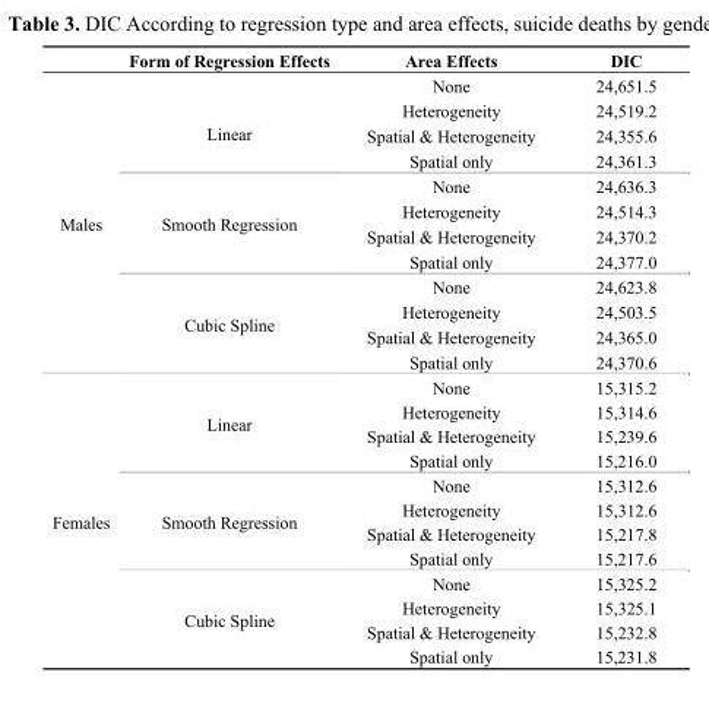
<table><thead><tr><td></td><td>Form of Regression Effects</td><td>Area Effects</td><td>DIC</td></tr></thead><tbody><tr><td rowspan="12">Males</td><td rowspan="4">Linear</td><td>None</td><td>24,651.5</td></tr><tr><td>Heterogeneity</td><td>24,519.2</td></tr><tr><td>Spatial &amp; Heterogeneity</td><td>24,355.6</td></tr><tr><td>Spatial only</td><td>24,361.3</td></tr><tr><td rowspan="4">Smooth Regression</td><td>None</td><td>24,636.3</td></tr><tr><td>Heterogeneity</td><td>24,514.3</td></tr><tr><td>Spatial &amp; Heterogeneity</td><td>24,370.2</td></tr><tr><td>Spatial only</td><td>24,377.0</td></tr><tr><td rowspan="4">Cubic Spline</td><td>None</td><td>24,623.8</td></tr><tr><td>Heterogeneity</td><td>24,503.5</td></tr><tr><td>Spatial &amp; Heterogeneity</td><td>24,365.0</td></tr><tr><td>Spatial only</td><td>24,370.6</td></tr><tr><td rowspan="12">Females</td><td rowspan="4">Linear</td><td>None</td><td>15,315.2</td></tr><tr><td>Heterogeneity</td><td>15,314.6</td></tr><tr><td>Spatial &amp; Heterogeneity</td><td>15,239.6</td></tr><tr><td>Spatial only</td><td>15,216.0</td></tr><tr><td rowspan="4">Smooth Regression</td><td>None</td><td>15,312.6</td></tr><tr><td>Heterogeneity</td><td>15,312.6</td></tr><tr><td>Spatial &amp; Heterogeneity</td><td>15,217.8</td></tr><tr><td>Spatial only</td><td>15,217.6</td></tr><tr><td rowspan="4">Cubic Spline</td><td>None</td><td>15,325.2</td></tr><tr><td>Heterogeneity</td><td>15,325.1</td></tr><tr><td>Spatial &amp; Heterogeneity</td><td>15,232.8</td></tr><tr><td>Spatial only</td><td>15,231.8</td></tr></tbody></table>